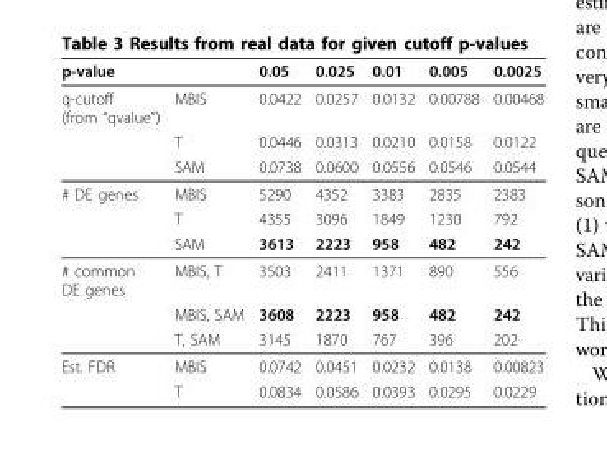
<table><thead><tr><td colspan="2">p-value</td><td rowspan="2">0.05 0.0422</td><td rowspan="2">0.025 0.0257</td><td rowspan="2">0.01 0.0132</td><td rowspan="2">0.005 0.00788</td><td rowspan="2">0.0025 0.00468</td></tr><tr><td>q-cutoff (from “qvalue”)</td><td>MBIS</td></tr></thead><tbody><tr><td></td><td>T</td><td>0.0446</td><td>0.0313</td><td>0.0210</td><td>0.0158</td><td>0.0122</td></tr><tr><td></td><td>SAM</td><td>0.0738</td><td>0.0600</td><td>0.0556</td><td>0.0546</td><td>0.0544</td></tr><tr><td rowspan="3"># DE genes</td><td>MBIS</td><td>5290</td><td>4352</td><td>3383</td><td>2835</td><td>2383</td></tr><tr><td>T</td><td>4355</td><td>3096</td><td>1849</td><td>1230</td><td>792</td></tr><tr><td>SAM</td><td>3613</td><td>2223</td><td>958</td><td>482</td><td>242</td></tr><tr><td rowspan="3"># common DE genes</td><td>MBIS, T</td><td>3503</td><td>2411</td><td>1371</td><td>890</td><td>556</td></tr><tr><td>MBIS, SAM</td><td>3608</td><td>2223</td><td>958</td><td>482</td><td>242</td></tr><tr><td>T, SAM</td><td>3145</td><td>1870</td><td>767</td><td>396</td><td>202</td></tr><tr><td rowspan="2">Est. FDR</td><td>MBIS</td><td>0.0742</td><td>0.0451</td><td>0.0232</td><td>0.0138</td><td>0.00823</td></tr><tr><td>T</td><td>0.0834</td><td>0.0586</td><td>0.0393</td><td>0.0295</td><td>0.0229</td></tr></tbody></table>